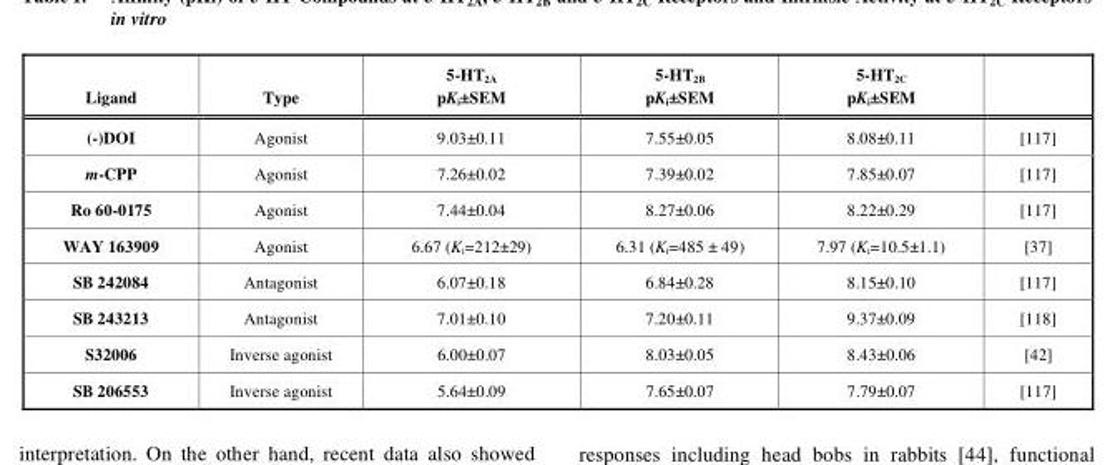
<table><thead><tr><td>Ligand</td><td>Type</td><td>5-HT<sub>2A</sub> pK<sub>i</sub>±SEM</td><td>5-HT<sub>2B</sub> pK<sub>i</sub>±SEM</td><td>5-HT<sub>2C</sub> pK<sub>i</sub>±SEM</td><td></td></tr></thead><tbody><tr><td>(-)DOI</td><td>Agonist</td><td>9.03±0.11</td><td>7.55±0.05</td><td>8.08±0.11</td><td>[117]</td></tr><tr><td>m-CPP</td><td>Agonist</td><td>7.26±0.02</td><td>7.39±0.02</td><td>7.85±0.07</td><td>[117]</td></tr><tr><td>Ro 60-0175</td><td>Agonist</td><td>7.44±0.04</td><td>8.27±0.06</td><td>8.22±0.29</td><td>[117]</td></tr><tr><td>WAY 163909</td><td>Agonist</td><td>6.67 (K<sub>i</sub>=212±29)</td><td>6.31 (K<sub>i</sub>=485 ± 49)</td><td>7.97 (K<sub>i</sub>=10.5±1.1)</td><td>[37]</td></tr><tr><td>SB 242084</td><td>Antagonist</td><td>6.07±0.18</td><td>6.84±0.28</td><td>8.15±0.10</td><td>[117]</td></tr><tr><td>SB 243213</td><td>Antagonist</td><td>7.01±0.10</td><td>7.20±0.11</td><td>9.37±0.09</td><td>[118]</td></tr><tr><td>S32006</td><td>Inverse agonist</td><td>6.00±0.07</td><td>8.03±0.05</td><td>8.43±0.06</td><td>[42]</td></tr><tr><td>SB 206553</td><td>Inverse agonist</td><td>5.64±0.09</td><td>7.65±0.07</td><td>7.79±0.07</td><td>[117]</td></tr></tbody></table>